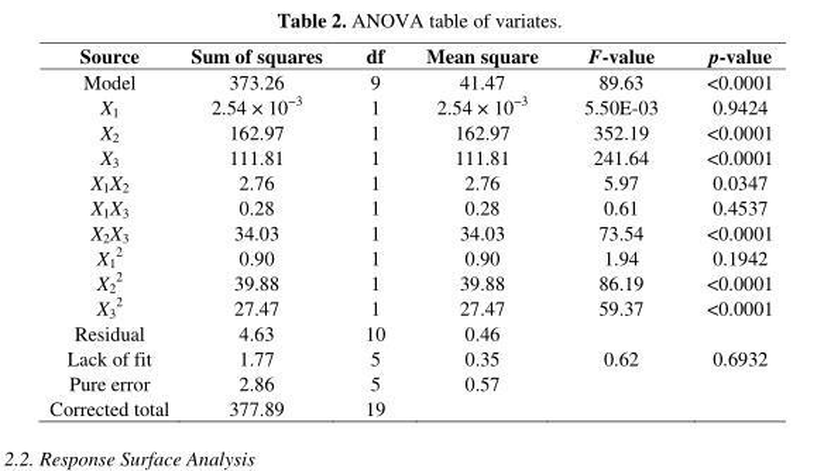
<table><thead><tr><td>Source</td><td>Sum of squares</td><td>df</td><td>Mean square</td><td>F-value</td><td>p-value</td></tr></thead><tbody><tr><td>Model</td><td>373.26</td><td>9</td><td>41.47</td><td>89.63</td><td>&lt;0.0001</td></tr><tr><td>X<sub>1</sub></td><td>2.54 × 10<sup>−3</sup></td><td>1</td><td>2.54 × 10<sup>−3</sup></td><td>5.50E-03</td><td>0.9424</td></tr><tr><td>X<sub>2</sub></td><td>162.97</td><td>1</td><td>162.97</td><td>352.19</td><td>&lt;0.0001</td></tr><tr><td>X<sub>3</sub></td><td>111.81</td><td>1</td><td>111.81</td><td>241.64</td><td>&lt;0.0001</td></tr><tr><td>X<sub>1</sub>X<sub>2</sub></td><td>2.76</td><td>1</td><td>2.76</td><td>5.97</td><td>0.0347</td></tr><tr><td>X<sub>1</sub>X<sub>3</sub></td><td>0.28</td><td>1</td><td>0.28</td><td>0.61</td><td>0.4537</td></tr><tr><td>X<sub>2</sub>X<sub>3</sub></td><td>34.03</td><td>1</td><td>34.03</td><td>73.54</td><td>&lt;0.0001</td></tr><tr><td>X<sub>1</sub> <sup>2</sup></td><td>0.90</td><td>1</td><td>0.90</td><td>1.94</td><td>0.1942</td></tr><tr><td>X<sub>2</sub> <sup>2</sup></td><td>39.88</td><td>1</td><td>39.88</td><td>86.19</td><td>&lt;0.0001</td></tr><tr><td>X<sub>3</sub> <sup>2</sup></td><td>27.47</td><td>1</td><td>27.47</td><td>59.37</td><td>&lt;0.0001</td></tr><tr><td>Residual</td><td>4.63</td><td>10</td><td>0.46</td><td></td><td></td></tr><tr><td>Lack of fit</td><td>1.77</td><td>5</td><td>0.35</td><td>0.62</td><td>0.6932</td></tr><tr><td>Pure error</td><td>2.86</td><td>5</td><td>0.57</td><td></td><td></td></tr><tr><td>Corrected total</td><td>377.89</td><td>19</td><td></td><td></td><td></td></tr></tbody></table>